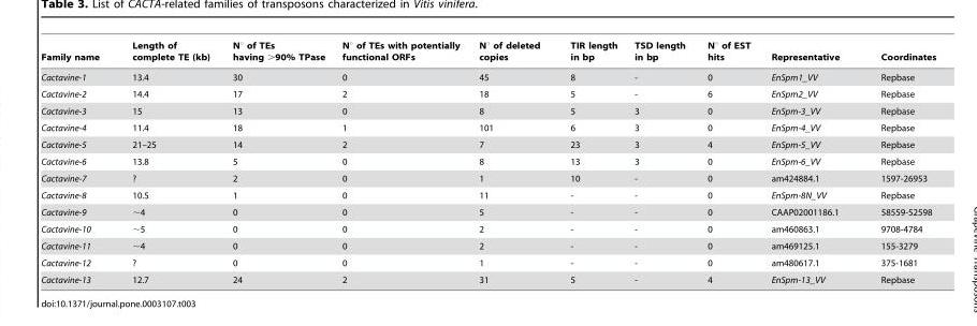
<table><thead><tr><td>Family name</td><td>Length of complete TE (kb)</td><td>N° of TEs having &gt;90% TPase</td><td>N° of TEs with potentially functional ORFs</td><td>N° of deleted copies</td><td>TIR length in bp</td><td>TSD length in bp</td><td>N° of EST hits</td><td>Representative</td><td>Coordinates</td></tr></thead><tbody><tr><td>Cactavine-1</td><td>13.4</td><td>30</td><td>0</td><td>45</td><td>8</td><td>-</td><td>0</td><td>EnSpm1_VV</td><td>Repbase</td></tr><tr><td>Cactavine-2</td><td>14.4</td><td>17</td><td>2</td><td>18</td><td>5</td><td>-</td><td>6</td><td>EnSpm2_VV</td><td>Repbase</td></tr><tr><td>Cactavine-3</td><td>15</td><td>13</td><td>0</td><td>8</td><td>5</td><td>3</td><td>0</td><td>EnSpm-3_VV</td><td>Repbase</td></tr><tr><td>Cactavine-4</td><td>11.4</td><td>18</td><td>1</td><td>101</td><td>6</td><td>3</td><td>0</td><td>EnSpm-4_VV</td><td>Repbase</td></tr><tr><td>Cactavine-5</td><td>21–25</td><td>14</td><td>2</td><td>7</td><td>23</td><td>3</td><td>4</td><td>EnSpm-5_VV</td><td>Repbase</td></tr><tr><td>Cactavine-6</td><td>13.8</td><td>5</td><td>0</td><td>8</td><td>13</td><td>3</td><td>0</td><td>EnSpm-6_VV</td><td>Repbase</td></tr><tr><td>Cactavine-7</td><td>?</td><td>2</td><td>0</td><td>1</td><td>10</td><td>-</td><td>0</td><td>am424884.1</td><td>1597-26953</td></tr><tr><td>Cactavine-8</td><td>10.5</td><td>1</td><td>0</td><td>11</td><td>-</td><td>-</td><td>0</td><td>EnSpm-8N_VV</td><td>Repbase</td></tr><tr><td>Cactavine-9</td><td>∼4</td><td>0</td><td>0</td><td>5</td><td>-</td><td>-</td><td>0</td><td>CAAP02001186.1</td><td>58559-52598</td></tr><tr><td>Cactavine-10</td><td>∼5</td><td>0</td><td>0</td><td>2</td><td>-</td><td>-</td><td>0</td><td>am460863.1</td><td>9708-4784</td></tr><tr><td>Cactavine-11</td><td>∼4</td><td>0</td><td>0</td><td>2</td><td>-</td><td>-</td><td>0</td><td>am469125.1</td><td>155-3279</td></tr><tr><td>Cactavine-12</td><td>?</td><td>0</td><td>0</td><td>1</td><td>-</td><td>-</td><td>0</td><td>am480617.1</td><td>375-1681</td></tr><tr><td>Cactavine-13</td><td>12.7</td><td>24</td><td>2</td><td>31</td><td>5</td><td>-</td><td>4</td><td>EnSpm-13_VV</td><td>Repbase</td></tr></tbody></table>